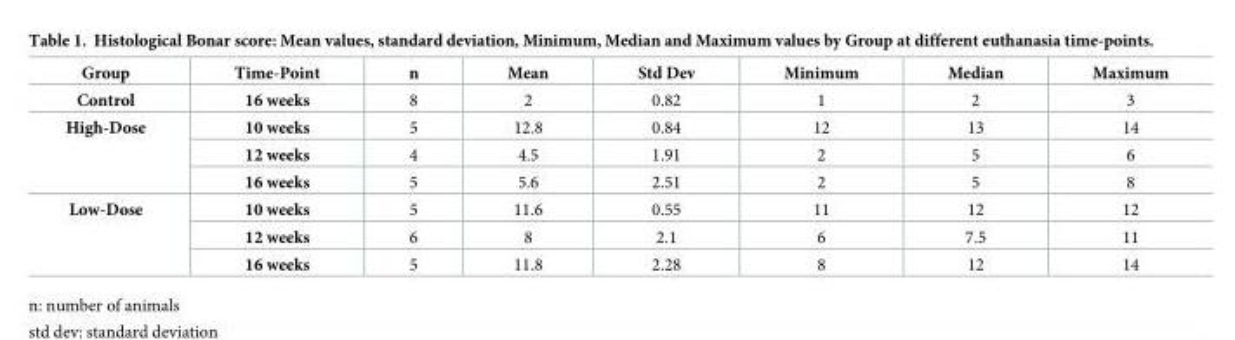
<table><thead><tr><td>Group</td><td>Time-Point</td><td>n</td><td>Mean</td><td>Std Dev</td><td>Minimum</td><td>Median</td><td>Maximum</td></tr></thead><tbody><tr><td>Control</td><td>16 weeks</td><td>8</td><td>2</td><td>0.82</td><td>1</td><td>2</td><td>3</td></tr><tr><td rowspan="3">High-Dose</td><td>10 weeks</td><td>5</td><td>12.8</td><td>0.84</td><td>12</td><td>13</td><td>14</td></tr><tr><td>12 weeks</td><td>4</td><td>4.5</td><td>1.91</td><td>2</td><td>5</td><td>6</td></tr><tr><td>16 weeks</td><td>5</td><td>5.6</td><td>2.51</td><td>2</td><td>5</td><td>8</td></tr><tr><td rowspan="3">Low-Dose</td><td>10 weeks</td><td>5</td><td>11.6</td><td>0.55</td><td>11</td><td>12</td><td>12</td></tr><tr><td>12 weeks</td><td>6</td><td>8</td><td>2.1</td><td>6</td><td>7.5</td><td>11</td></tr><tr><td>16 weeks</td><td>5</td><td>11.8</td><td>2.28</td><td>8</td><td>12</td><td>14</td></tr></tbody></table>